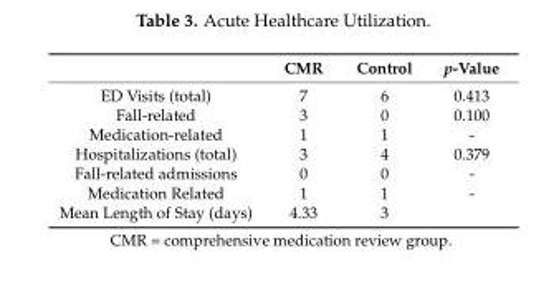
<table><thead><tr><td></td><td>CMR</td><td>Control</td><td>p-Value</td></tr></thead><tbody><tr><td>ED Visits (total)</td><td>7</td><td>6</td><td>0.413</td></tr><tr><td>Fall-related</td><td>3</td><td>0</td><td>0.100</td></tr><tr><td>Medication-related</td><td>1</td><td>1</td><td>-</td></tr><tr><td>Hospitalizations (total)</td><td>3</td><td>4</td><td>0.379</td></tr><tr><td>Fall-related admissions</td><td>0</td><td>0</td><td>-</td></tr><tr><td>Medication Related</td><td>1</td><td>1</td><td>-</td></tr><tr><td>Mean Length of Stay (days)</td><td>4.33</td><td>3</td><td></td></tr></tbody></table>